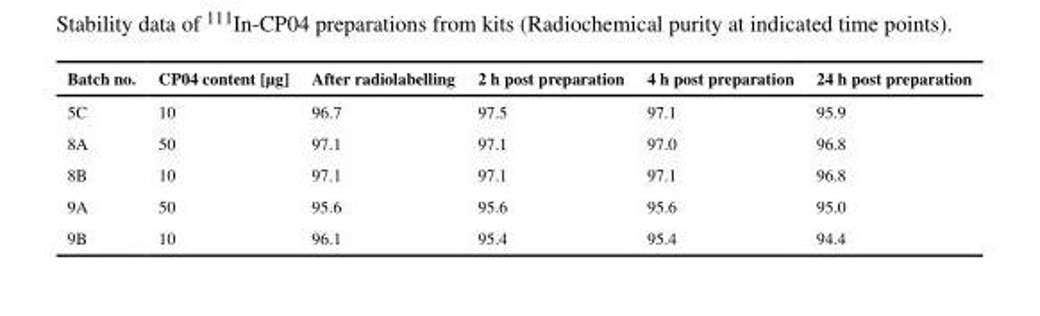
<table><thead><tr><td>Batch no.</td><td>CP04 content [μg]</td><td>After radiolabelling</td><td>2 h post preparation</td><td>4 h post preparation</td><td>24 h post preparation</td></tr></thead><tbody><tr><td>5C</td><td>10</td><td>96.7</td><td>97.5</td><td>97.1</td><td>95.9</td></tr><tr><td>8A</td><td>50</td><td>97.1</td><td>97.1</td><td>97.0</td><td>96.8</td></tr><tr><td>8B</td><td>10</td><td>97.1</td><td>97.1</td><td>97.1</td><td>96.8</td></tr><tr><td>9A</td><td>50</td><td>95.6</td><td>95.6</td><td>95.6</td><td>95.0</td></tr><tr><td>9B</td><td>10</td><td>96.1</td><td>95.4</td><td>95.4</td><td>94.4</td></tr></tbody></table>